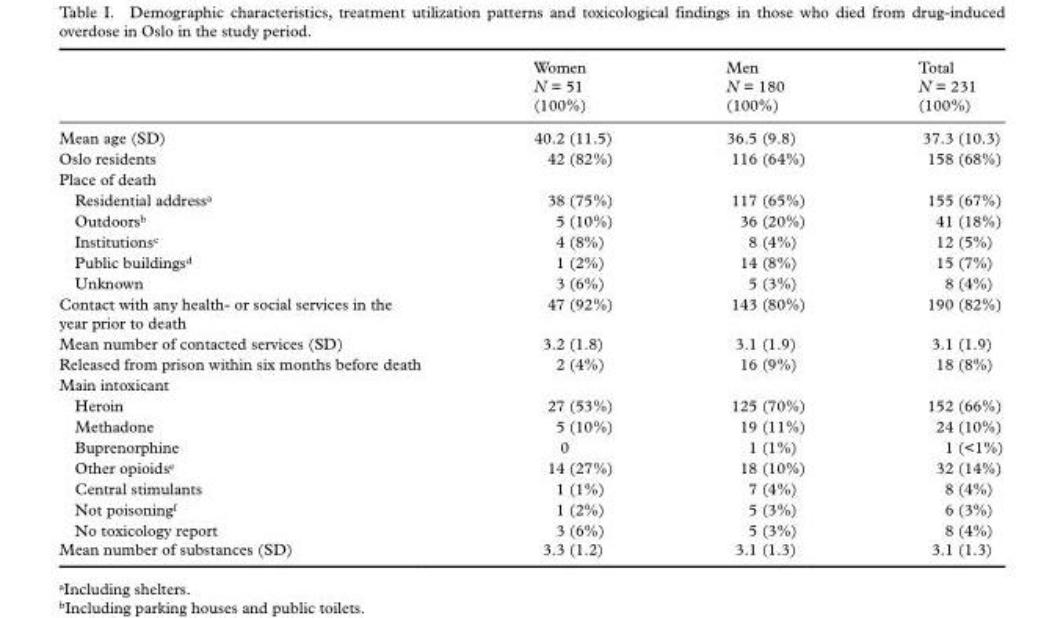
<table><thead><tr><td rowspan="3"></td><td rowspan="3">Women N = 51 (100%)</td><td rowspan="3">Men N = 180 (100%)</td><td rowspan="3">Total N = 231 (100%)</td></tr><tr></tr><tr></tr></thead><tbody><tr><td>Mean age (SD)</td><td>40.2 (11.5)</td><td>36.5 (9.8)</td><td>37.3 (10.3)</td></tr><tr><td>Oslo residents</td><td>42 (82%)</td><td>116 (64%)</td><td>158 (68%)</td></tr><tr><td colspan="4">Place of death</td></tr><tr><td>Residential address<sup>a</sup></td><td>38 (75%)</td><td>117 (65%)</td><td>155 (67%)</td></tr><tr><td>Outdoors<sup>b</sup></td><td>5 (10%)</td><td>36 (20%)</td><td>41 (18%)</td></tr><tr><td>Institutions<sup>c</sup></td><td>4 (8%)</td><td>8 (4%)</td><td>12 (5%)</td></tr><tr><td>Public buildings<sup>d</sup></td><td>1 (2%)</td><td>14 (8%)</td><td>15 (7%)</td></tr><tr><td>Unknown</td><td>3 (6%)</td><td>5 (3%)</td><td>8 (4%)</td></tr><tr><td>Contact with any health- or social services in the year prior to death</td><td>47 (92%)</td><td>143 (80%)</td><td>190 (82%)</td></tr><tr><td>Mean number of contacted services (SD)</td><td>3.2 (1.8)</td><td>3.1 (1.9)</td><td>3.1 (1.9)</td></tr><tr><td>Released from prison within six months before death</td><td>2 (4%)</td><td>16 (9%)</td><td>18 (8%)</td></tr><tr><td colspan="4">Main intoxicant</td></tr><tr><td>Heroin</td><td>27 (53%)</td><td>125 (70%)</td><td>152 (66%)</td></tr><tr><td>Methadone</td><td>5 (10%)</td><td>19 (11%)</td><td>24 (10%)</td></tr><tr><td>Buprenorphine</td><td>0</td><td>1 (1%)</td><td>1 (&lt;1%)</td></tr><tr><td>Other opioids<sup>e</sup></td><td>14 (27%)</td><td>18 (10%)</td><td>32 (14%)</td></tr><tr><td>Central stimulants</td><td>1 (1%)</td><td>7 (4%)</td><td>8 (4%)</td></tr><tr><td>Not poisoning<sup>f</sup></td><td>1 (2%)</td><td>5 (3%)</td><td>6 (3%)</td></tr><tr><td>No toxicology report</td><td>3 (6%)</td><td>5 (3%)</td><td>8 (4%)</td></tr><tr><td>Mean number of substances (SD)</td><td>3.3 (1.2)</td><td>3.1 (1.3)</td><td>3.1 (1.3)</td></tr></tbody></table>